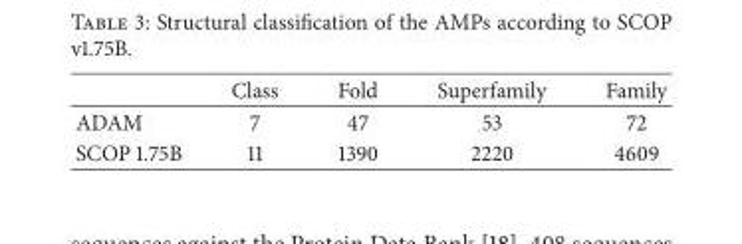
<table><thead><tr><td></td><td>Class</td><td>Fold</td><td>Superfamily</td><td>Family</td></tr></thead><tbody><tr><td>ADAM</td><td>7</td><td>47</td><td>53</td><td>72</td></tr><tr><td>SCOP 1.75B</td><td>11</td><td>1390</td><td>2220</td><td>4609</td></tr></tbody></table>